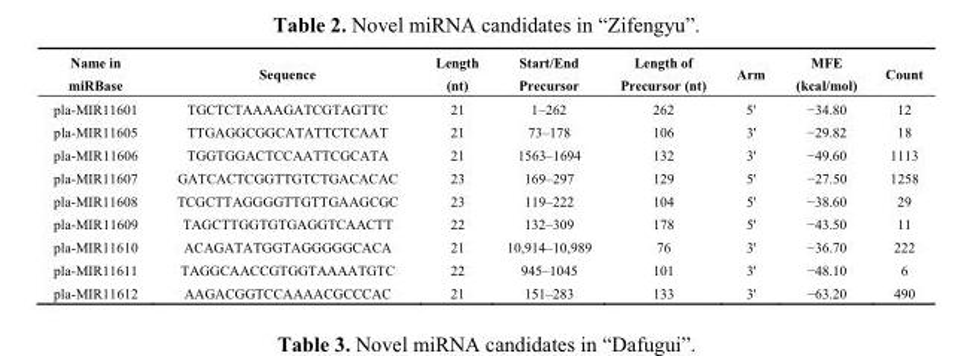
<table><thead><tr><td>Name in miRBase</td><td>Sequence</td><td>Length (nt)</td><td>Start/End Precursor</td><td>Length of Precursor (nt)</td><td>Arm</td><td>MFE (kcal/mol)</td><td>Count</td></tr></thead><tbody><tr><td>pla-MIR11601</td><td>TGCTCTAAAAGATCGTAGTTC</td><td>21</td><td>1–262</td><td>262</td><td>5&#x27;</td><td>−34.80</td><td>12</td></tr><tr><td>pla-MIR11605</td><td>TTGAGGCGGCATATTCTCAAT</td><td>21</td><td>73–178</td><td>106</td><td>3&#x27;</td><td>−29.82</td><td>18</td></tr><tr><td>pla-MIR11606</td><td>TGGTGGACTCCAATTCGCATA</td><td>21</td><td>1563–1694</td><td>132</td><td>3&#x27;</td><td>−49.60</td><td>1113</td></tr><tr><td>pla-MIR11607</td><td>GATCACTCGGTTGTCTGACACAC</td><td>23</td><td>169–297</td><td>129</td><td>5&#x27;</td><td>−27.50</td><td>1258</td></tr><tr><td>pla-MIR11608</td><td>TCGCTTAGGGGTTGTTGAAGCGC</td><td>23</td><td>119–222</td><td>104</td><td>5&#x27;</td><td>−38.60</td><td>29</td></tr><tr><td>pla-MIR11609</td><td>TAGCTTGGTGTGAGGTCAACTT</td><td>22</td><td>132–309</td><td>178</td><td>5&#x27;</td><td>−43.50</td><td>11</td></tr><tr><td>pla-MIR11610</td><td>ACAGATATGGTAGGGGGCACA</td><td>21</td><td>10,914–10,989</td><td>76</td><td>3&#x27;</td><td>−36.70</td><td>222</td></tr><tr><td>pla-MIR11611</td><td>TAGGCAACCGTGGTAAAATGTC</td><td>22</td><td>945–1045</td><td>101</td><td>3&#x27;</td><td>−48.10</td><td>6</td></tr><tr><td>pla-MIR11612</td><td>AAGACGGTCCAAAACGCCCAC</td><td>21</td><td>151–283</td><td>133</td><td>3&#x27;</td><td>−63.20</td><td>490</td></tr></tbody></table>